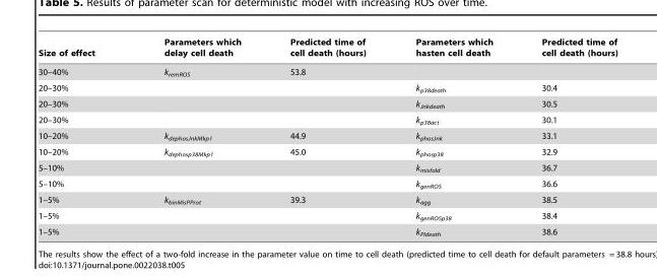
<table><thead><tr><td>Size of effect</td><td>Parameters which delay cell death</td><td>Predicted time of cell death (hours)</td><td>Parameters which hasten cell death</td><td>Predicted time of cell death (hours)</td></tr></thead><tbody><tr><td>30–40%</td><td>k<sub>remROS</sub></td><td>53.8</td><td></td><td></td></tr><tr><td>20–30%</td><td></td><td></td><td>k<sub>p38death</sub></td><td>30.4</td></tr><tr><td>20–30%</td><td></td><td></td><td>k<sub>Jnkdeath</sub></td><td>30.5</td></tr><tr><td>20–30%</td><td></td><td></td><td>k<sub>p38act</sub></td><td>30.1</td></tr><tr><td>10–20%</td><td>k<sub>dephosJnkMkp1</sub></td><td>44.9</td><td>k<sub>phosJnk</sub></td><td>33.1</td></tr><tr><td>10–20%</td><td>k<sub>dephosp38Mkp1</sub></td><td>45.0</td><td>k<sub>phosp38</sub></td><td>32.9</td></tr><tr><td>5–10%</td><td></td><td></td><td>k<sub>misfold</sub></td><td>36.7</td></tr><tr><td>5–10%</td><td></td><td></td><td>k<sub>genROS</sub></td><td>36.6</td></tr><tr><td>1–5%</td><td>k<sub>binMisPProt</sub></td><td>39.3</td><td>k<sub>agg</sub></td><td>38.5</td></tr><tr><td>1–5%</td><td></td><td></td><td>k<sub>genROSp38</sub></td><td>38.4</td></tr><tr><td>1–5%</td><td></td><td></td><td>k<sub>PIdeath</sub></td><td>38.6</td></tr></tbody></table>